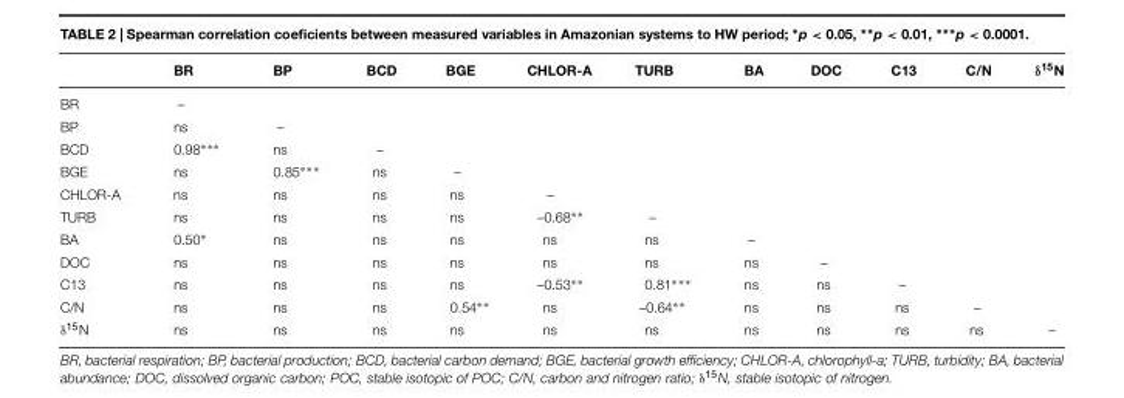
<table><thead><tr><td></td><td>BR</td><td>BP</td><td>BCD</td><td>BGE</td><td>CHLOR-A</td><td>TURB</td><td>BA</td><td>DOC</td><td>C13</td><td>C/N</td><td>δ<sup>15</sup>N</td></tr></thead><tbody><tr><td>BR</td><td>–</td><td></td><td></td><td></td><td></td><td></td><td></td><td></td><td></td><td></td><td></td></tr><tr><td>BP</td><td>ns</td><td>–</td><td></td><td></td><td></td><td></td><td></td><td></td><td></td><td></td><td></td></tr><tr><td>BCD</td><td>0.98∗∗∗</td><td>ns</td><td>–</td><td></td><td></td><td></td><td></td><td></td><td></td><td></td><td></td></tr><tr><td>BGE</td><td>ns</td><td>0.85∗∗∗</td><td>ns</td><td>–</td><td></td><td></td><td></td><td></td><td></td><td></td><td></td></tr><tr><td>CHLOR-A</td><td>ns</td><td>ns</td><td>ns</td><td>ns</td><td>–</td><td></td><td></td><td></td><td></td><td></td><td></td></tr><tr><td>TURB</td><td>ns</td><td>ns</td><td>ns</td><td>ns</td><td>–0.68∗∗</td><td>–</td><td></td><td></td><td></td><td></td><td></td></tr><tr><td>BA</td><td>0.50∗</td><td>ns</td><td>ns</td><td>ns</td><td>ns</td><td>ns</td><td>–</td><td></td><td></td><td></td><td></td></tr><tr><td>DOC</td><td>ns</td><td>ns</td><td>ns</td><td>ns</td><td>ns</td><td>ns</td><td>ns</td><td>–</td><td></td><td></td><td></td></tr><tr><td>C13</td><td>ns</td><td>ns</td><td>ns</td><td>ns</td><td>–0.53∗∗</td><td>0.81∗∗∗</td><td>ns</td><td>ns</td><td>–</td><td></td><td></td></tr><tr><td>C/N</td><td>ns</td><td>ns</td><td>ns</td><td>0.54∗∗</td><td>ns</td><td>–0.64∗∗</td><td>ns</td><td>ns</td><td>ns</td><td>–</td><td></td></tr><tr><td>δ<sup>15</sup>N</td><td>ns</td><td>ns</td><td>ns</td><td>ns</td><td>ns</td><td>ns</td><td>ns</td><td>ns</td><td>ns</td><td>ns</td><td>–</td></tr></tbody></table>